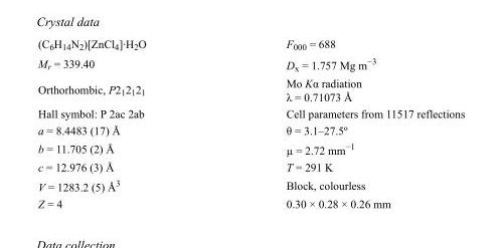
<table><tbody><tr><td>(C<sub>6</sub>H<sub>14</sub>N<sub>2</sub>)[ZnCl<sub>4</sub>]·H<sub>2</sub>O</td><td>F000 = 688</td></tr><tr><td>M<sub>r</sub> = 339.40</td><td>D<sub>x</sub> = 1.757 Mg m<sup>−3</sup></td></tr><tr><td>Orthorhombic, P2<sub>1</sub>2<sub>1</sub>2<sub>1</sub></td><td>Mo Kα radiation λ = 0.71073 Å</td></tr><tr><td>Hall symbol: P 2ac 2ab</td><td>Cell parameters from 11517 reflections</td></tr><tr><td>a = 8.4483 (17) Å</td><td>θ = 3.1–27.5º</td></tr><tr><td>b = 11.705 (2) Å</td><td>µ = 2.72 mm<sup>−1</sup></td></tr><tr><td>c = 12.976 (3) Å</td><td>T = 291 K</td></tr><tr><td>V = 1283.2 (5) Å<sup>3</sup></td><td>Block, colourless</td></tr><tr><td>Z = 4</td><td>0.30 × 0.28 × 0.26 mm</td></tr></tbody></table>